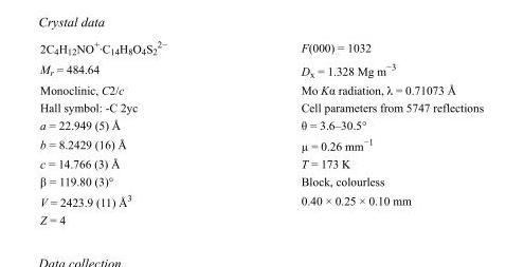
<table><tbody><tr><td>2C<sub>4</sub>H<sub>12</sub>NO<sup>+</sup>·C<sub>14</sub>H<sub>8</sub>O<sub>4</sub>S<sub>2</sub> <sup>2−</sup></td><td>F(000) = 1032</td></tr><tr><td>M<sub>r</sub> = 484.64</td><td>D<sub>x</sub> = 1.328 Mg m<sup>−3</sup></td></tr><tr><td>Monoclinic, C2/c</td><td>Mo Kα radiation, λ = 0.71073 Å</td></tr><tr><td>Hall symbol: -C 2yc</td><td>Cell parameters from 5747 reflections</td></tr><tr><td>a = 22.949 (5) Å</td><td>θ = 3.6–30.5°</td></tr><tr><td>b = 8.2429 (16) Å</td><td>µ = 0.26 mm<sup>−1</sup></td></tr><tr><td>c = 14.766 (3) Å</td><td>T = 173 K</td></tr><tr><td>β = 119.80 (3)°</td><td>Block, colourless</td></tr><tr><td>V = 2423.9 (11) Å<sup>3</sup></td><td>0.40 × 0.25 × 0.10 mm</td></tr><tr><td>Z = 4</td><td></td></tr></tbody></table>